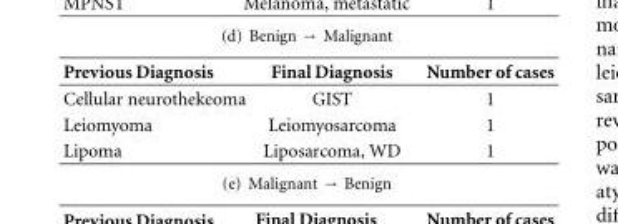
<table><thead><tr><td>Previous Diagnosis</td><td>Final Diagnosis</td><td>Number of cases</td></tr></thead><tbody><tr><td>Cellular neurothekeoma</td><td>GIST</td><td>1</td></tr><tr><td>Leiomyoma</td><td>Leiomyosarcoma</td><td>1</td></tr><tr><td>Lipoma</td><td>Liposarcoma, WD</td><td>1</td></tr></tbody></table>